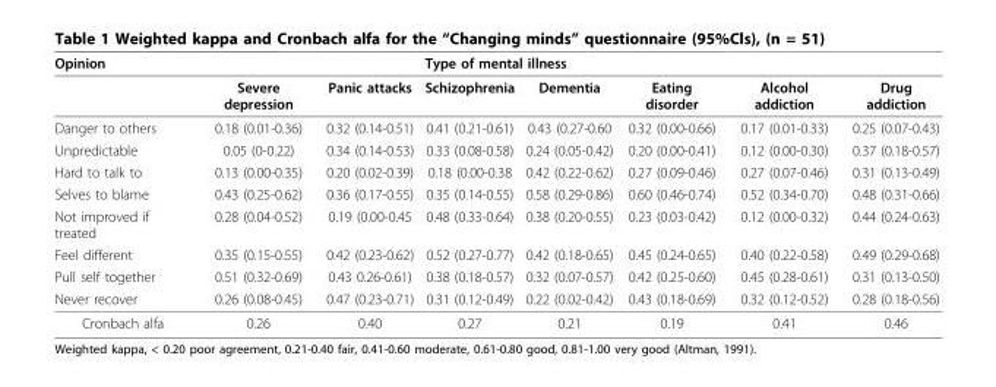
<table><thead><tr><td colspan="3">Opinion</td><td colspan="5">Type of mental illness</td></tr><tr><td></td><td>Severe depression</td><td>Panic attacks</td><td>Schizophrenia</td><td>Dementia</td><td>Eating disorder</td><td>Alcohol addiction</td><td>Drug addiction</td></tr></thead><tbody><tr><td>Danger to others</td><td>0.18 (0.01-0.36)</td><td>0.32 (0.14-0.51)</td><td>0.41 (0.21-0.61)</td><td>0.43 (0.27-0.60</td><td>0.32 (0.00-0.66)</td><td>0.17 (0.01-0.33)</td><td>0.25 (0.07-0.43)</td></tr><tr><td>Unpredictable</td><td>0.05 (0-0.22)</td><td>0.34 (0.14-0.53)</td><td>0.33 (0.08-0.58)</td><td>0.24 (0.05-0.42)</td><td>0.20 (0.00-0.41)</td><td>0.12 (0.00-0.30)</td><td>0.37 (0.18-0.57)</td></tr><tr><td>Hard to talk to</td><td>0.13 (0.00-0.35)</td><td>0.20 (0.02-0.39)</td><td>0.18 (0.00-0.38</td><td>0.42 (0.22-0.62)</td><td>0.27 (0.09-0.46)</td><td>0.27 (0.07-0.46)</td><td>0.31 (0.13-0.49)</td></tr><tr><td>Selves to blame</td><td>0.43 (0.25-0.62)</td><td>0.36 (0.17-0.55)</td><td>0.35 (0.14-0.55)</td><td>0.58 (0.29-0.86)</td><td>0.60 (0.46-0.74)</td><td>0.52 (0.34-0.70)</td><td>0.48 (0.31-0.66)</td></tr><tr><td>Not improved if treated</td><td>0.28 (0.04-0.52)</td><td>0.19 (0.00-0.45</td><td>0.48 (0.33-0.64)</td><td>0.38 (0.20-0.55)</td><td>0.23 (0.03-0.42)</td><td>0.12 (0.00-0.32)</td><td>0.44 (0.24-0.63)</td></tr><tr><td>Feel different</td><td>0.35 (0.15-0.55)</td><td>0.42 (0.23-0.62)</td><td>0.52 (0.27-0.77)</td><td>0.42 (0.18-0.65)</td><td>0.45 (0.24-0.65)</td><td>0.40 (0.22-0.58)</td><td>0.49 (0.29-0.68)</td></tr><tr><td>Pull self together</td><td>0.51 (0.32-0.69)</td><td>0.43 0.26-0.61)</td><td>0.38 (0.18-0.57)</td><td>0.32 (0.07-0.57)</td><td>0.42 (0.25-0.60)</td><td>0.45 (0.28-0.61)</td><td>0.31 (0.13-0.50)</td></tr><tr><td>Never recover</td><td>0.26 (0.08-0.45)</td><td>0.47 (0.23-0.71)</td><td>0.31 (0.12-0.49)</td><td>0.22 (0.02-0.42)</td><td>0.43 (0.18-0.69)</td><td>0.32 (0.12-0.52)</td><td>0.28 (0.18-0.56)</td></tr><tr><td>Cronbach alfa</td><td>0.26</td><td>0.40</td><td>0.27</td><td>0.21</td><td>0.19</td><td>0.41</td><td>0.46</td></tr></tbody></table>